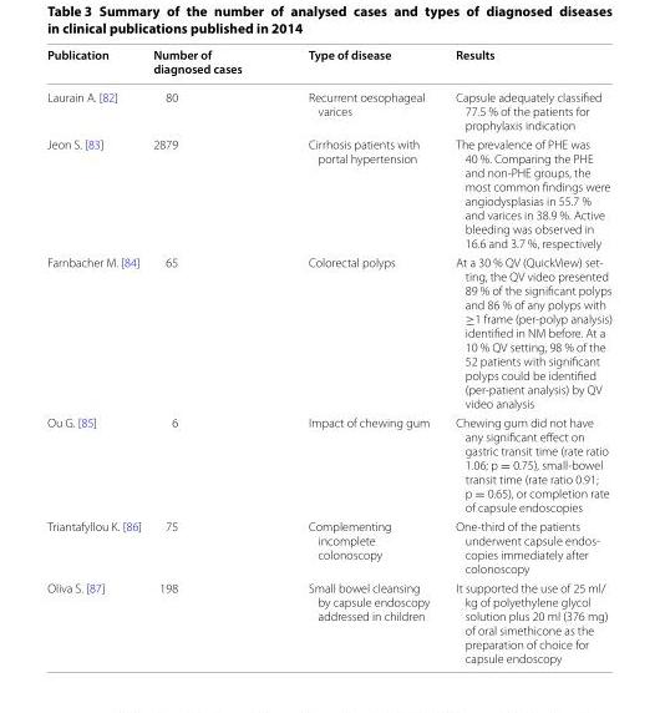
<table><thead><tr><td>Publication</td><td>Number of diagnosed cases</td><td>Type of disease</td><td>Results</td></tr></thead><tbody><tr><td>Laurain A. [82]</td><td>80</td><td>Recurrent oesophageal varices</td><td>Capsule adequately classified 77.5 % of the patients for prophylaxis indication</td></tr><tr><td>Jeon S. [83]</td><td>2879</td><td>Cirrhosis patients with portal hypertension</td><td>The prevalence of PHE was 40 %. Comparing the PHE and non‑PHE groups, the most common findings were angiodysplasias in 55.7 % and varices in 38.9 %. Active bleeding was observed in 16.6 and 3.7 %, respectively</td></tr><tr><td>Farnbacher M. [84]</td><td>65</td><td>Colorectal polyps</td><td>At a 30 % QV (QuickView) set‑ ting, the QV video presented 89 % of the significant polyps and 86 % of any polyps with ≥1 frame (per‑polyp analysis) identified in NM before. At a 10 % QV setting, 98 % of the 52 patients with significant polyps could be identified (per‑patient analysis) by QV video analysis</td></tr><tr><td>Ou G. [85]</td><td>6</td><td>Impact of chewing gum</td><td>Chewing gum did not have any significant effect on gastric transit time (rate ratio 1.06; p = 0.75), small‑bowel transit time (rate ratio 0.91; p = 0.65), or completion rate of capsule endoscopies</td></tr><tr><td>Triantafyllou K. [86]</td><td>75</td><td>Complementing incomplete colonoscopy</td><td>One‑third of the patients underwent capsule endos‑ copies immediately after colonoscopy</td></tr><tr><td>Oliva S. [87]</td><td>198</td><td>Small bowel cleansing by capsule endoscopy addressed in children</td><td>It supported the use of 25 ml/ kg of polyethylene glycol solution plus 20 ml (376 mg) of oral simethicone as the preparation of choice for capsule endoscopy</td></tr></tbody></table>